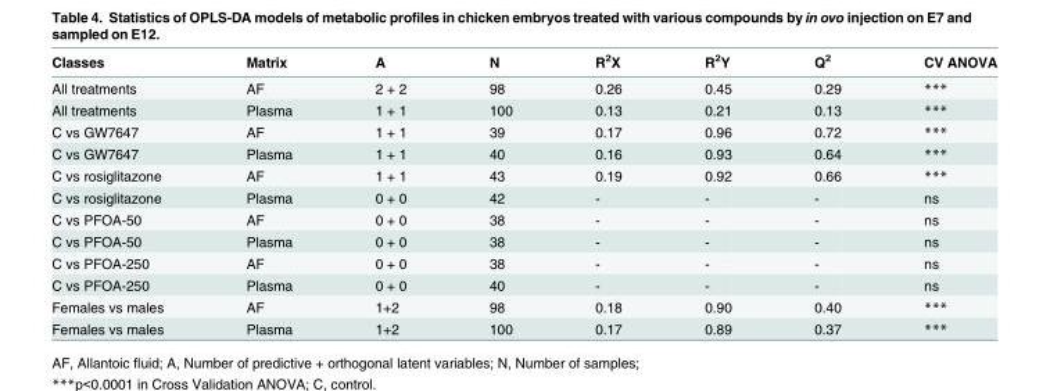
<table><thead><tr><td>Classes</td><td>Matrix</td><td>A</td><td>N</td><td>R<sup>2</sup>X</td><td>R<sup>2</sup>Y</td><td>Q<sup>2</sup></td><td>CV ANOVA</td></tr></thead><tbody><tr><td>All treatments</td><td>AF</td><td>2 + 2</td><td>98</td><td>0.26</td><td>0.45</td><td>0.29</td><td>***</td></tr><tr><td>All treatments</td><td>Plasma</td><td>1 + 1</td><td>100</td><td>0.13</td><td>0.21</td><td>0.13</td><td>***</td></tr><tr><td>C vs GW7647</td><td>AF</td><td>1 + 1</td><td>39</td><td>0.17</td><td>0.96</td><td>0.72</td><td>***</td></tr><tr><td>C vs GW7647</td><td>Plasma</td><td>1 + 1</td><td>40</td><td>0.16</td><td>0.93</td><td>0.64</td><td>***</td></tr><tr><td>C vs rosiglitazone</td><td>AF</td><td>1 + 1</td><td>43</td><td>0.19</td><td>0.92</td><td>0.66</td><td>***</td></tr><tr><td>C vs rosiglitazone</td><td>Plasma</td><td>0 + 0</td><td>42</td><td>-</td><td>-</td><td>-</td><td>ns</td></tr><tr><td>C vs PFOA-50</td><td>AF</td><td>0 + 0</td><td>38</td><td>-</td><td>-</td><td>-</td><td>ns</td></tr><tr><td>C vs PFOA-50</td><td>Plasma</td><td>0 + 0</td><td>38</td><td>-</td><td>-</td><td>-</td><td>ns</td></tr><tr><td>C vs PFOA-250</td><td>AF</td><td>0 + 0</td><td>38</td><td>-</td><td>-</td><td>-</td><td>ns</td></tr><tr><td>C vs PFOA-250</td><td>Plasma</td><td>0 + 0</td><td>40</td><td>-</td><td>-</td><td>-</td><td>ns</td></tr><tr><td>Females vs males</td><td>AF</td><td>1+2</td><td>98</td><td>0.18</td><td>0.90</td><td>0.40</td><td>***</td></tr><tr><td>Females vs males</td><td>Plasma</td><td>1+2</td><td>100</td><td>0.17</td><td>0.89</td><td>0.37</td><td>***</td></tr></tbody></table>